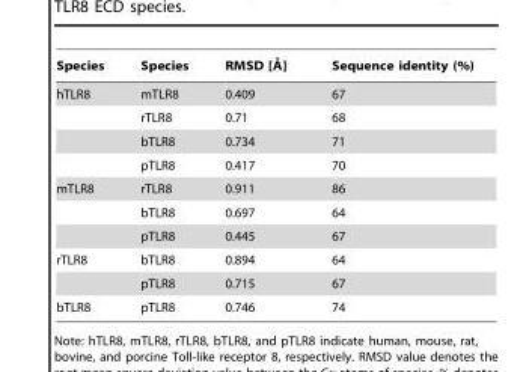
<table><thead><tr><td>Species</td><td>Species</td><td>RMSD [A˚ ]</td><td>Sequence identity (%)</td></tr></thead><tbody><tr><td rowspan="4">hTLR8</td><td>mTLR8</td><td>0.409</td><td>67</td></tr><tr><td>rTLR8</td><td>0.71</td><td>68</td></tr><tr><td>bTLR8</td><td>0.734</td><td>71</td></tr><tr><td>pTLR8</td><td>0.417</td><td>70</td></tr><tr><td rowspan="3">mTLR8</td><td>rTLR8</td><td>0.911</td><td>86</td></tr><tr><td>bTLR8</td><td>0.697</td><td>64</td></tr><tr><td>pTLR8</td><td>0.445</td><td>67</td></tr><tr><td rowspan="2">rTLR8</td><td>bTLR8</td><td>0.894</td><td>64</td></tr><tr><td>pTLR8</td><td>0.715</td><td>67</td></tr><tr><td>bTLR8</td><td>pTLR8</td><td>0.746</td><td>74</td></tr></tbody></table>